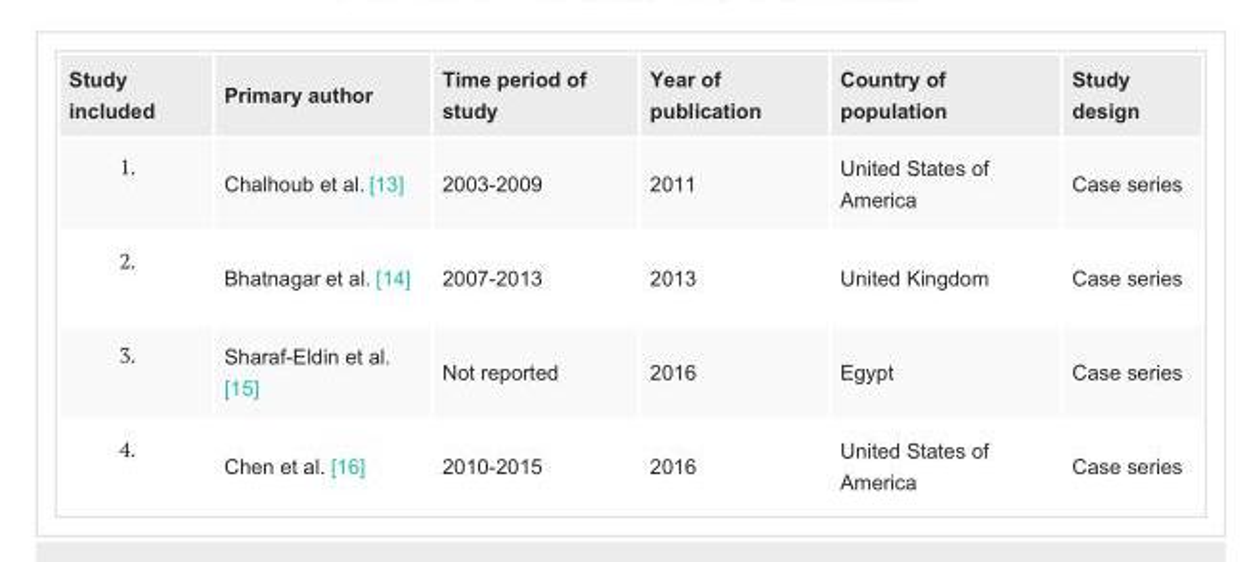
<table><tbody><tr><td rowspan="5">Study included 1. 2. 3. 4.</td><td>Primary author</td><td>Time period of study</td><td>Year of publication</td><td>Country of population</td><td>Study design</td></tr><tr><td>Chalhoub et al. [13]</td><td>2003-2009</td><td>2011</td><td>United States of America</td><td>Case series</td></tr><tr><td>Bhatnagar et al. [14]</td><td>2007-2013</td><td>2013</td><td>United Kingdom</td><td>Case series</td></tr><tr><td>Sharaf-Eldin et al. [15]</td><td>Not reported</td><td>2016</td><td>Egypt</td><td>Case series</td></tr><tr><td>Chen et al. [16]</td><td>2010-2015</td><td>2016</td><td>United States of America</td><td>Case series</td></tr></tbody></table>